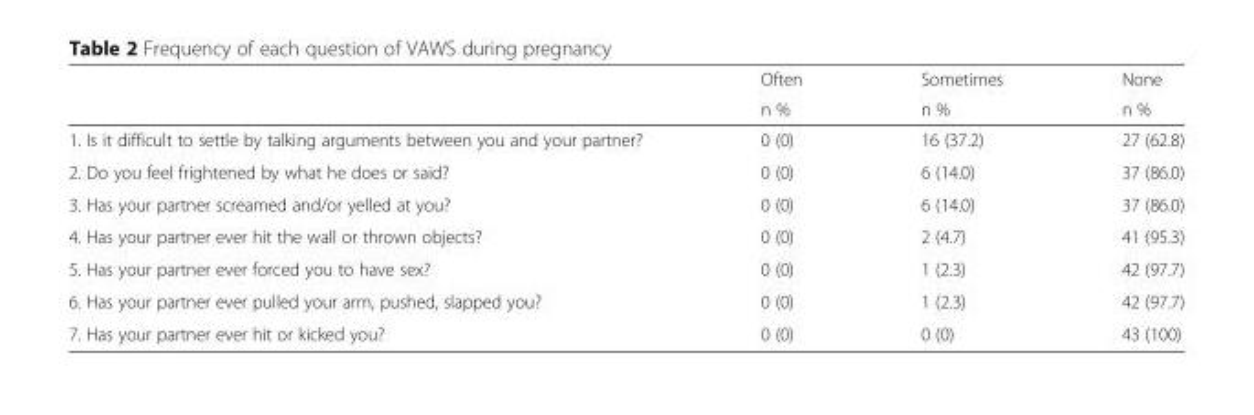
<table><thead><tr><td rowspan="2"></td><td rowspan="2">Often n %</td><td rowspan="2">Sometimes n %</td><td rowspan="2">None n %</td></tr><tr></tr></thead><tbody><tr><td>1. Is it difficult to settle by talking arguments between you and your partner?</td><td>0 (0)</td><td>16 (37.2)</td><td>27 (62.8)</td></tr><tr><td>2. Do you feel frightened by what he does or said?</td><td>0 (0)</td><td>6 (14.0)</td><td>37 (86.0)</td></tr><tr><td>3. Has your partner screamed and/or yelled at you?</td><td>0 (0)</td><td>6 (14.0)</td><td>37 (86.0)</td></tr><tr><td>4. Has your partner ever hit the wall or thrown objects?</td><td>0 (0)</td><td>2 (4.7)</td><td>41 (95.3)</td></tr><tr><td>5. Has your partner ever forced you to have sex?</td><td>0 (0)</td><td>1 (2.3)</td><td>42 (97.7)</td></tr><tr><td>6. Has your partner ever pulled your arm, pushed, slapped you?</td><td>0 (0)</td><td>1 (2.3)</td><td>42 (97.7)</td></tr><tr><td>7. Has your partner ever hit or kicked you?</td><td>0 (0)</td><td>0 (0)</td><td>43 (100)</td></tr></tbody></table>